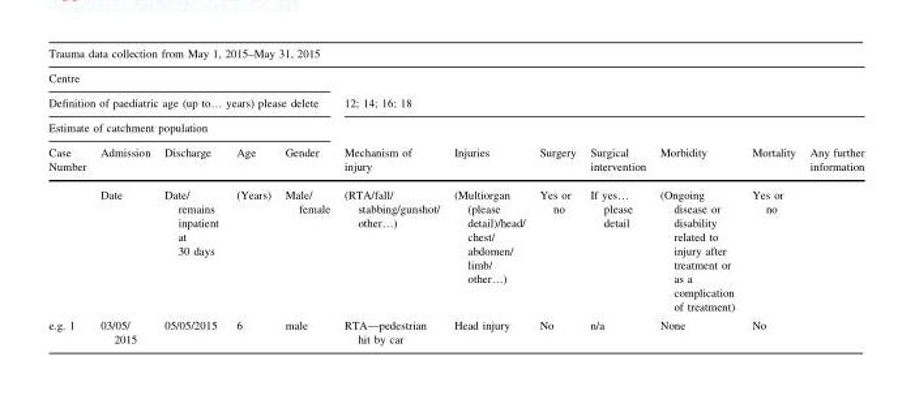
<table><thead><tr><td colspan="12">Trauma data collection from May 1, 2015–May 31, 2015</td></tr><tr><td rowspan="3" colspan="5">Centre Definition of paediatric age (up to… years) please delete Estimate of catchment population</td><td></td><td></td><td></td><td></td><td></td><td></td><td></td></tr><tr><td colspan="7">12; 14; 16; 18</td></tr><tr><td rowspan="2">Mechanism of injury</td><td rowspan="2">Injuries</td><td rowspan="2">Surgery</td><td rowspan="2">Surgical intervention</td><td rowspan="2">Morbidity</td><td rowspan="2">Mortality</td><td rowspan="2">Any further information</td></tr><tr><td>Case Number</td><td>Admission</td><td>Discharge</td><td>Age</td><td>Gender</td></tr></thead><tbody><tr><td></td><td>Date</td><td>Date/ remains inpatient at 30 days</td><td>(Years)</td><td>Male/ female</td><td>(RTA/fall/ stabbing/gunshot/ other…)</td><td>(Multiorgan (please detail)/head/ chest/ abdomen/ limb/ other…)</td><td>Yes or no</td><td>If yes… please detail</td><td>(Ongoing disease or disability related to injury after treatment or as a complication of treatment)</td><td>Yes or no</td><td></td></tr><tr><td>e.g. 1</td><td>03/05/ 2015</td><td>05/05/2015</td><td>6</td><td>male</td><td>RTA—pedestrian hit by car</td><td>Head injury</td><td>No</td><td>n/a</td><td>None</td><td>No</td><td></td></tr></tbody></table>